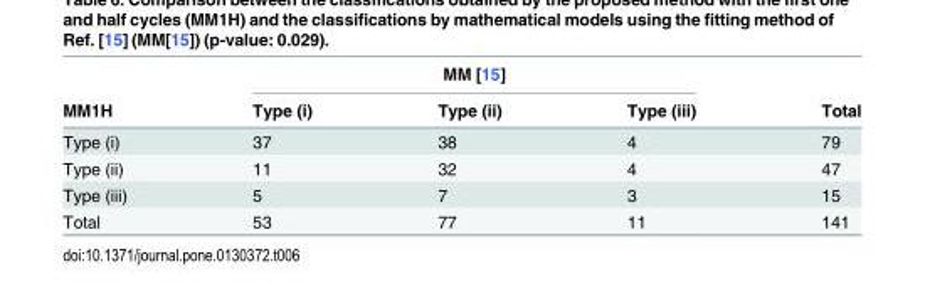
<table><thead><tr><td rowspan="2">MM1H</td><td colspan="3">MM [15]</td><td rowspan="2">Total</td></tr><tr><td>Type (i)</td><td>Type (ii)</td><td>Type (iii)</td></tr></thead><tbody><tr><td>Type (i)</td><td>37</td><td>38</td><td>4</td><td>79</td></tr><tr><td>Type (ii)</td><td>11</td><td>32</td><td>4</td><td>47</td></tr><tr><td>Type (iii)</td><td>5</td><td>7</td><td>3</td><td>15</td></tr><tr><td>Total</td><td>53</td><td>77</td><td>11</td><td>141</td></tr></tbody></table>